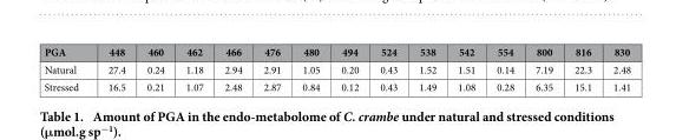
<table><thead><tr><td>PGA</td><td>448</td><td>460</td><td>462</td><td>466</td><td>476</td><td>480</td><td>494</td><td>524</td><td>538</td><td>542</td><td>554</td><td>800</td><td>816</td><td>830</td></tr></thead><tbody><tr><td>Natural</td><td>27.4</td><td>0.24</td><td>1.18</td><td>2.94</td><td>2.91</td><td>1.05</td><td>0.20</td><td>0.43</td><td>1.52</td><td>1.51</td><td>0.14</td><td>7.19</td><td>22.3</td><td>2.48</td></tr><tr><td>Stressed</td><td>16.5</td><td>0.21</td><td>1.07</td><td>2.48</td><td>2.87</td><td>0.84</td><td>0.12</td><td>0.43</td><td>1.49</td><td>1.08</td><td>0.28</td><td>6.35</td><td>15.1</td><td>1.41</td></tr></tbody></table>